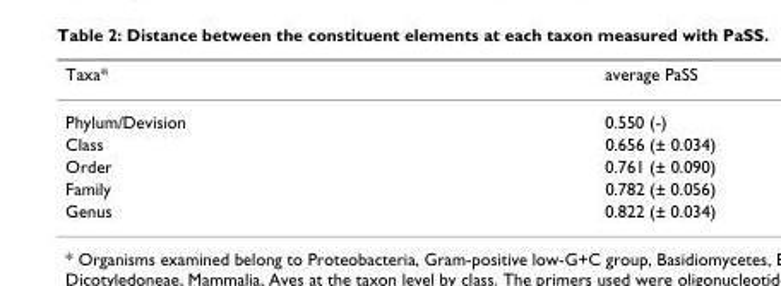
<table><thead><tr><td>Taxa*</td><td>average PaSS</td></tr></thead><tbody><tr><td>Phylum/Devision</td><td>0.550 (-)</td></tr><tr><td>Class</td><td>0.656 (± 0.034)</td></tr><tr><td>Order</td><td>0.761 (± 0.090)</td></tr><tr><td>Family</td><td>0.782 (± 0.056)</td></tr><tr><td>Genus</td><td>0.822 (± 0.034)</td></tr></tbody></table>